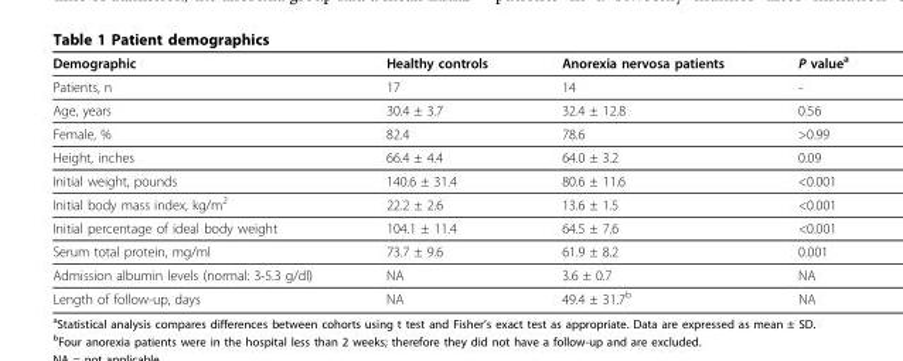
<table><thead><tr><td>Demographic</td><td>Healthy controls</td><td>Anorexia nervosa patients</td><td>P value<sup>a</sup></td></tr></thead><tbody><tr><td>Patients, n</td><td>17</td><td>14</td><td>-</td></tr><tr><td>Age, years</td><td>30.4 ± 3.7</td><td>32.4 ± 12.8</td><td>0.56</td></tr><tr><td>Female, %</td><td>82.4</td><td>78.6</td><td>&gt;0.99</td></tr><tr><td>Height, inches</td><td>66.4 ± 4.4</td><td>64.0 ± 3.2</td><td>0.09</td></tr><tr><td>Initial weight, pounds</td><td>140.6 ± 31.4</td><td>80.6 ± 11.6</td><td>&lt;0.001</td></tr><tr><td>Initial body mass index, kg/m<sup>2</sup></td><td>22.2 ± 2.6</td><td>13.6 ± 1.5</td><td>&lt;0.001</td></tr><tr><td>Initial percentage of ideal body weight</td><td>104.1 ± 11.4</td><td>64.5 ± 7.6</td><td>&lt;0.001</td></tr><tr><td>Serum total protein, mg/ml</td><td>73.7 ± 9.6</td><td>61.9 ± 8.2</td><td>0.001</td></tr><tr><td>Admission albumin levels (normal: 3-5.3 g/dl)</td><td>NA</td><td>3.6 ± 0.7</td><td>NA</td></tr><tr><td>Length of follow-up, days</td><td>NA</td><td>49.4 ± 31.7<sup>b</sup></td><td>NA</td></tr></tbody></table>